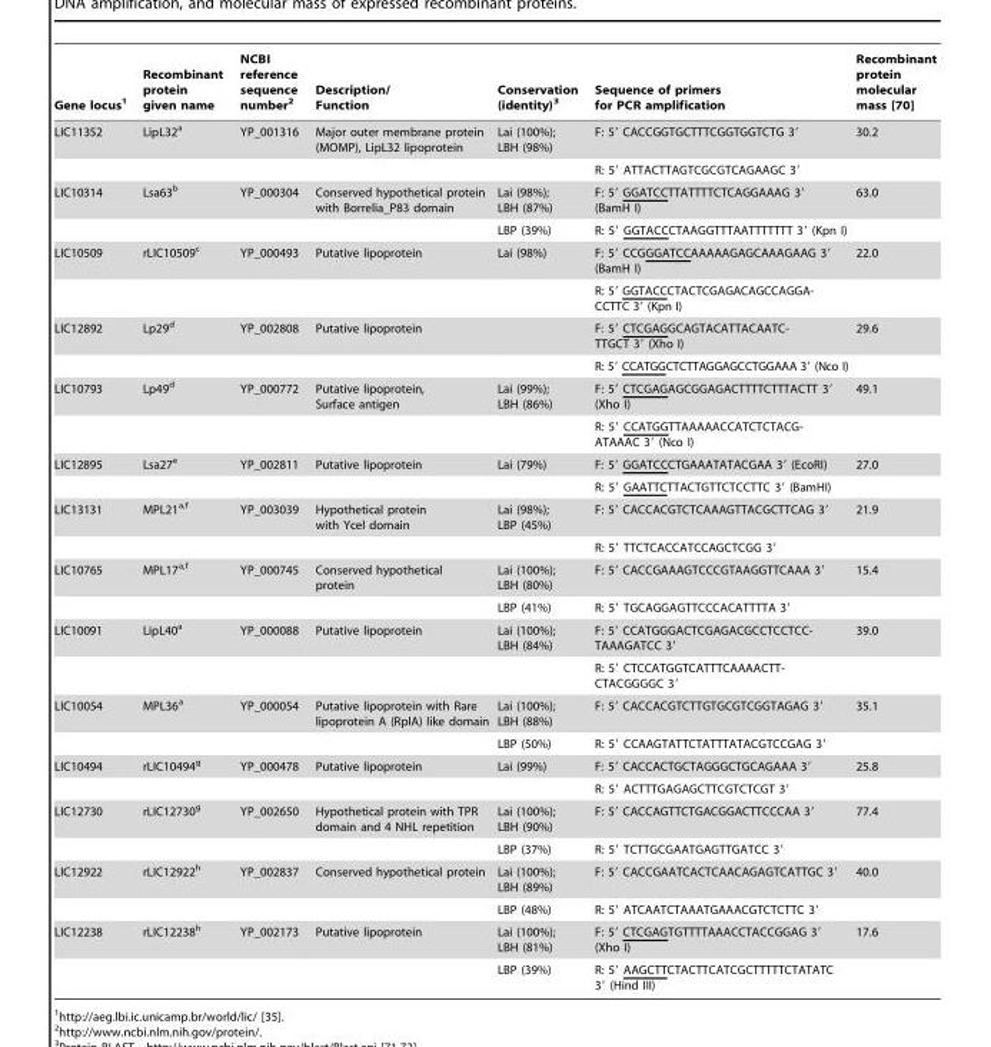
<table><thead><tr><td>Gene locus<sup>1</sup></td><td>Recombinant protein given name</td><td>NCBI reference sequence number<sup>2</sup></td><td>Description/ Function</td><td>Conservation (identity)<sup>3</sup></td><td>Sequence of primers for PCR amplification</td><td>Recombinant protein molecular mass [70]</td></tr></thead><tbody><tr><td rowspan="2">LIC11352</td><td>LipL32<sup>a</sup></td><td>YP_001316</td><td>Major outer membrane protein (MOMP), LipL32 lipoprotein</td><td>Lai (100%); LBH (98%)</td><td>F: 5′ CACCGGTGCTTTCGGTGGTCTG 3′</td><td>30.2</td></tr><tr><td></td><td></td><td></td><td></td><td>R: 5′ ATTACTTAGTCGCGTCAGAAGC 3′</td><td></td></tr><tr><td rowspan="2">LIC10314</td><td>Lsa63<sup>b</sup></td><td>YP_000304</td><td>Conserved hypothetical protein with Borrelia_P83 domain</td><td>Lai (98%); LBH (87%)</td><td>F: 5′ GGATCCTTATTTTCTCAGGAAAG 3′ (BamH I)</td><td>63.0</td></tr><tr><td></td><td></td><td></td><td>LBP (39%)</td><td>R: 5′ GGTACCCTAAGGTTTAATTTTTTT 3′ (Kpn I)</td><td></td></tr><tr><td rowspan="2">LIC10509</td><td>rLIC10509<sup>c</sup></td><td>YP_000493</td><td>Putative lipoprotein</td><td>Lai (98%)</td><td>F: 5′ CCGGGATCCAAAAAGAGCAAAGAAG 3′ (BamH I)</td><td>22.0</td></tr><tr><td></td><td></td><td></td><td></td><td>R: 59 GGTACCCTACTCGAGACAGCCAGGA- CCTTC 39 (Kpn I)</td><td></td></tr><tr><td rowspan="2">LIC12892</td><td>Lp29<sup>d</sup></td><td>YP_002808</td><td>Putative lipoprotein</td><td></td><td>F: 59 CTCGAGGCAGTACATTACAATC- TTGCT 39 (Xho I)</td><td>29.6</td></tr><tr><td></td><td></td><td></td><td></td><td>R: 5′ CCATGGCTCTTAGGAGCCTGGAAA 3′ (Nco I)</td><td></td></tr><tr><td rowspan="2">LIC10793</td><td>Lp49<sup>d</sup></td><td>YP_000772</td><td>Putative lipoprotein, Surface antigen</td><td>Lai (99%); LBH (86%)</td><td>F: 5′ CTCGAGAGCGGAGACTTTTCTTTACTT 3′ (Xho I)</td><td>49.1</td></tr><tr><td></td><td></td><td></td><td></td><td>R: 59 CCATGGTTAAAAACCATCTCTACG- ATAAAC 39 (Nco I)</td><td></td></tr><tr><td rowspan="2">LIC12895</td><td>Lsa27<sup>e</sup></td><td>YP_002811</td><td>Putative lipoprotein</td><td>Lai (79%)</td><td>F: 5′ GGATCCCTGAAATATACGAA 3′ (EcoRI)</td><td>27.0</td></tr><tr><td></td><td></td><td></td><td></td><td>R: 5′ GAATTCTTACTGTTCTCCTTC 3′ (BamHI)</td><td></td></tr><tr><td rowspan="2">LIC13131</td><td>MPL21<sup>a,</sup>f</td><td>YP_003039</td><td>Hypothetical protein with Ycel domain</td><td>Lai (98%); LBP (45%)</td><td>F: 5′ CACCACGTCTCAAAGTTACGCTTCAG 3′</td><td>21.9</td></tr><tr><td></td><td></td><td></td><td></td><td>R: 5′ TTCTCACCATCCAGCTCGG 3′</td><td></td></tr><tr><td rowspan="2">LIC10765</td><td>MPL17<sup>a,</sup>f</td><td>YP_000745</td><td>Conserved hypothetical protein</td><td>Lai (100%); LBH (80%)</td><td>F: 5′ CACCGAAAGTCCCGTAAGGTTCAAA 3′</td><td>15.4</td></tr><tr><td></td><td></td><td></td><td>LBP (41%)</td><td>R: 5′ TGCAGGAGTTCCCACATTTTA 3′</td><td></td></tr><tr><td rowspan="2">LIC10091</td><td>LipL40<sup>a</sup></td><td>YP_000088</td><td>Putative lipoprotein</td><td>Lai (100%); LBH (84%)</td><td>F: 59 CCATGGGACTCGAGACGCCTCCTCC- TAAAGATCC 39</td><td>39.0</td></tr><tr><td></td><td></td><td></td><td></td><td>R: 59 CTCCATGGTCATTTCAAAACTT- CTACGGGGC 39</td><td></td></tr><tr><td rowspan="2">LIC10054</td><td>MPL36<sup>a</sup></td><td>YP_000054</td><td>Putative lipoprotein with Rare lipoprotein A (RplA) like domain</td><td>Lai (100%); LBH (88%)</td><td>F: 5′ CACCACGTCTTGTGCGTCGGTAGAG 3′</td><td>35.1</td></tr><tr><td></td><td></td><td></td><td>LBP (50%)</td><td>R: 5′ CCAAGTATTCTATTTATACGTCCGAG 3′</td><td></td></tr><tr><td rowspan="2">LIC10494</td><td>rLIC10494<sup>g</sup></td><td>YP_000478</td><td>Putative lipoprotein</td><td>Lai (99%)</td><td>F: 5′ CACCACTGCTAGGGCTGCAGAAA 3′</td><td>25.8</td></tr><tr><td></td><td></td><td></td><td></td><td>R: 5′ ACTTTGAGAGCTTCGTCTCGT 3′</td><td></td></tr><tr><td rowspan="2">LIC12730</td><td>rLIC12730<sup>g</sup></td><td>YP_002650</td><td>Hypothetical protein with TPR domain and 4 NHL repetition</td><td>Lai (100%); LBH (90%)</td><td>F: 5′ CACCAGTTCTGACGGACTTCCCAA 3′</td><td>77.4</td></tr><tr><td></td><td></td><td></td><td>LBP (37%)</td><td>R: 5′ TCTTGCGAATGAGTTGATCC 3′</td><td></td></tr><tr><td rowspan="2">LIC12922</td><td>rLIC12922<sup>h</sup></td><td>YP_002837</td><td>Conserved hypothetical protein</td><td>Lai (100%); LBH (89%)</td><td>F: 5′ CACCGAATCACTCAACAGAGTCATTGC 3′</td><td>40.0</td></tr><tr><td></td><td></td><td></td><td>LBP (48%)</td><td>R: 5′ ATCAATCTAAATGAAACGTCTCTTC 3′</td><td></td></tr><tr><td rowspan="2">LIC12238</td><td>rLIC12238<sup>h</sup></td><td>YP_002173</td><td>Putative lipoprotein</td><td>Lai (100%); LBH (81%)</td><td>F: 5′ CTCGAGTGTTTTAAACCTACCGGAG 3′ (Xho I)</td><td>17.6</td></tr><tr><td></td><td></td><td></td><td>LBP (39%)</td><td>R: 5′ AAGCTTCTACTTCATCGCTTTTTCTATATC 3′ (Hind III)</td><td></td></tr></tbody></table>